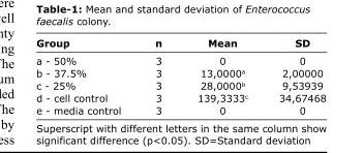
<table><thead><tr><td>Group</td><td>n</td><td>Mean</td><td>SD</td></tr></thead><tbody><tr><td>a - 50%</td><td>3</td><td>0</td><td>0</td></tr><tr><td>b - 37.5%</td><td>3</td><td>13,0000<sup>a</sup></td><td>2,00000</td></tr><tr><td>c - 25%</td><td>3</td><td>28,0000<sup>b</sup></td><td>9,53939</td></tr><tr><td>d - cell control</td><td>3</td><td>139,3333<sup>c</sup></td><td>34,67468</td></tr><tr><td>e - media control</td><td>3</td><td>0</td><td>0</td></tr></tbody></table>